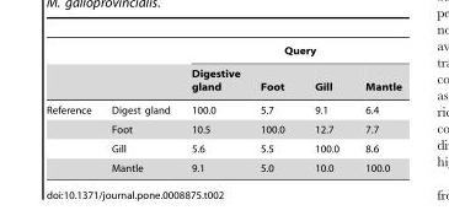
<table><thead><tr><td rowspan="2"></td><td rowspan="2"></td><td colspan="4">Query</td></tr><tr><td>Digestive gland</td><td>Foot</td><td>Gill</td><td>Mantle</td></tr></thead><tbody><tr><td rowspan="4">Reference</td><td>Digest gland</td><td>100.0</td><td>5.7</td><td>9.1</td><td>6.4</td></tr><tr><td>Foot</td><td>10.5</td><td>100.0</td><td>12.7</td><td>7.7</td></tr><tr><td>Gill</td><td>5.6</td><td>5.5</td><td>100.0</td><td>8.6</td></tr><tr><td>Mantle</td><td>9.1</td><td>5.0</td><td>10.0</td><td>100.0</td></tr></tbody></table>